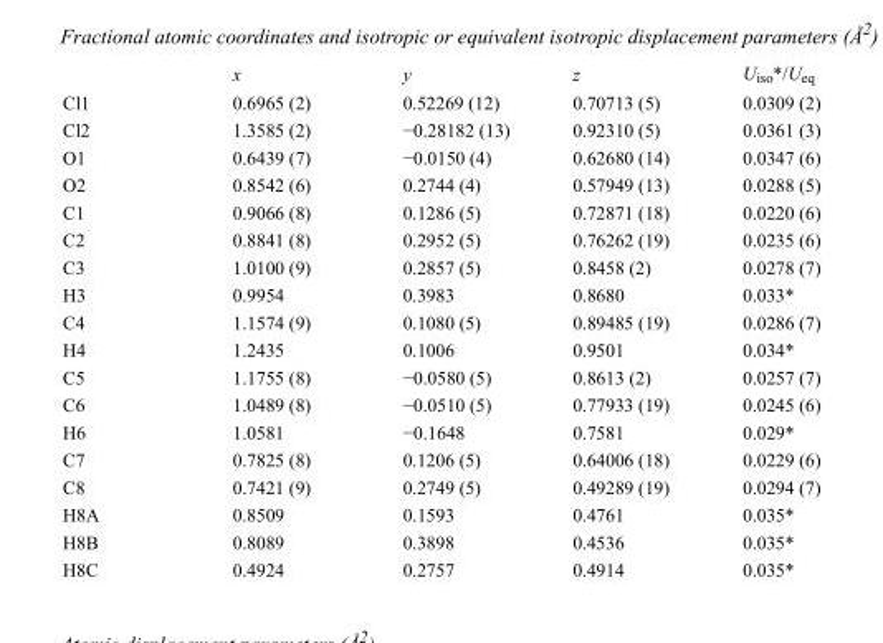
<table><thead><tr><td></td><td>x</td><td>y</td><td>z</td><td>U<sub>iso</sub>*/U<sub>eq</sub></td></tr></thead><tbody><tr><td>Cl1</td><td>0.6965 (2)</td><td>0.52269 (12)</td><td>0.70713 (5)</td><td>0.0309 (2)</td></tr><tr><td>Cl2</td><td>1.3585 (2)</td><td>−0.28182 (13)</td><td>0.92310 (5)</td><td>0.0361 (3)</td></tr><tr><td>O1</td><td>0.6439 (7)</td><td>−0.0150 (4)</td><td>0.62680 (14)</td><td>0.0347 (6)</td></tr><tr><td>O2</td><td>0.8542 (6)</td><td>0.2744 (4)</td><td>0.57949 (13)</td><td>0.0288 (5)</td></tr><tr><td>C1</td><td>0.9066 (8)</td><td>0.1286 (5)</td><td>0.72871 (18)</td><td>0.0220 (6)</td></tr><tr><td>C2</td><td>0.8841 (8)</td><td>0.2952 (5)</td><td>0.76262 (19)</td><td>0.0235 (6)</td></tr><tr><td>C3</td><td>1.0100 (9)</td><td>0.2857 (5)</td><td>0.8458 (2)</td><td>0.0278 (7)</td></tr><tr><td>H3</td><td>0.9954</td><td>0.3983</td><td>0.8680</td><td>0.033*</td></tr><tr><td>C4</td><td>1.1574 (9)</td><td>0.1080 (5)</td><td>0.89485 (19)</td><td>0.0286 (7)</td></tr><tr><td>H4</td><td>1.2435</td><td>0.1006</td><td>0.9501</td><td>0.034*</td></tr><tr><td>C5</td><td>1.1755 (8)</td><td>−0.0580 (5)</td><td>0.8613 (2)</td><td>0.0257 (7)</td></tr><tr><td>C6</td><td>1.0489 (8)</td><td>−0.0510 (5)</td><td>0.77933 (19)</td><td>0.0245 (6)</td></tr><tr><td>H6</td><td>1.0581</td><td>−0.1648</td><td>0.7581</td><td>0.029*</td></tr><tr><td>C7</td><td>0.7825 (8)</td><td>0.1206 (5)</td><td>0.64006 (18)</td><td>0.0229 (6)</td></tr><tr><td>C8</td><td>0.7421 (9)</td><td>0.2749 (5)</td><td>0.49289 (19)</td><td>0.0294 (7)</td></tr><tr><td>H8A</td><td>0.8509</td><td>0.1593</td><td>0.4761</td><td>0.035*</td></tr><tr><td>H8B</td><td>0.8089</td><td>0.3898</td><td>0.4536</td><td>0.035*</td></tr><tr><td>H8C</td><td>0.4924</td><td>0.2757</td><td>0.4914</td><td>0.035*</td></tr></tbody></table>